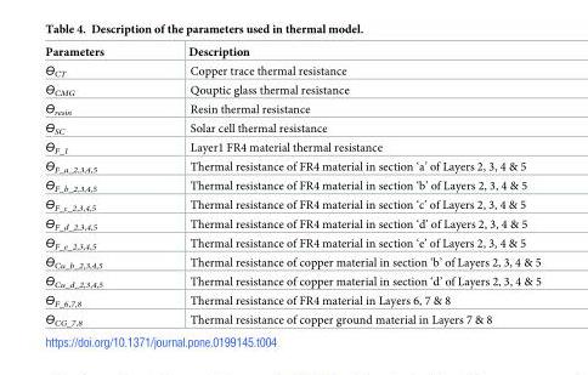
<table><thead><tr><td>Parameters</td><td>Description</td></tr></thead><tbody><tr><td>ϴ<sub>CT</sub></td><td>Copper trace thermal resistance</td></tr><tr><td>ϴ<sub>CMG</sub></td><td>Qouptic glass thermal resistance</td></tr><tr><td>ϴ<sub>resin</sub></td><td>Resin thermal resistance</td></tr><tr><td>ϴ<sub>SC</sub></td><td>Solar cell thermal resistance</td></tr><tr><td>ϴ<sub>F_1</sub></td><td>Layer1 FR4 material thermal resistance</td></tr><tr><td>ϴ<sub>F_a_2,3,4,5</sub></td><td>Thermal resistance of FR4 material in section ‘a’ of Layers 2, 3, 4 &amp; 5</td></tr><tr><td>ϴ<sub>F_b_2,3,4,5</sub></td><td>Thermal resistance of FR4 material in section ‘b’ of Layers 2, 3, 4 &amp; 5</td></tr><tr><td>ϴ<sub>F_c_2,3,4,5</sub></td><td>Thermal resistance of FR4 material in section ‘c’ of Layers 2, 3, 4 &amp; 5</td></tr><tr><td>ϴ<sub>F_d_2,3,4,5</sub></td><td>Thermal resistance of FR4 material in section ‘d’ of Layers 2, 3, 4 &amp; 5</td></tr><tr><td>ϴ<sub>F_e_2,3,4,5</sub></td><td>Thermal resistance of FR4 material in section ‘e’ of Layers 2, 3, 4 &amp; 5</td></tr><tr><td>ϴ<sub>Cu_b_2,3,4,5</sub></td><td>Thermal resistance of copper material in section ‘b’ of Layers 2, 3, 4 &amp; 5</td></tr><tr><td>ϴ<sub>Cu_d_2,3,4,5</sub></td><td>Thermal resistance of copper material in section ‘d’ of Layers 2, 3, 4 &amp; 5</td></tr><tr><td>ϴ<sub>F_6,7,8</sub></td><td>Thermal resistance of FR4 material in Layers 6, 7 &amp; 8</td></tr><tr><td>ϴ<sub>CG_7,8</sub></td><td>Thermal resistance of copper ground material in Layers 7 &amp; 8</td></tr></tbody></table>